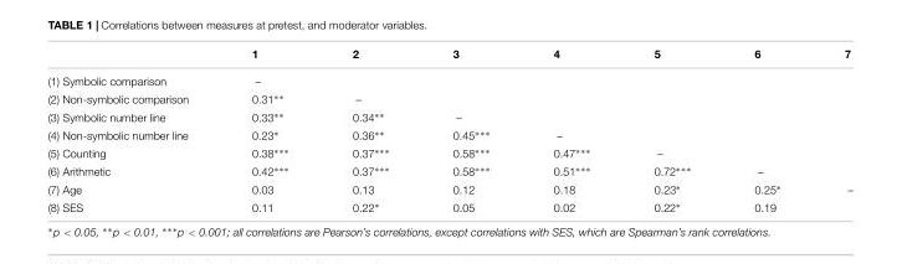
<table><thead><tr><td></td><td>1</td><td>2</td><td>3</td><td>4</td><td>5</td><td>6</td><td>7</td></tr></thead><tbody><tr><td>(1) Symbolic comparison</td><td>–</td><td></td><td></td><td></td><td></td><td></td><td></td></tr><tr><td>(2) Non-symbolic comparison</td><td>0.31∗∗</td><td>–</td><td></td><td></td><td></td><td></td><td></td></tr><tr><td>(3) Symbolic number line</td><td>0.33∗∗</td><td>0.34∗∗</td><td>–</td><td></td><td></td><td></td><td></td></tr><tr><td>(4) Non-symbolic number line</td><td>0.23∗</td><td>0.36∗∗</td><td>0.45∗∗∗</td><td>–</td><td></td><td></td><td></td></tr><tr><td>(5) Counting</td><td>0.38∗∗∗</td><td>0.37∗∗∗</td><td>0.58∗∗∗</td><td>0.47∗∗∗</td><td>–</td><td></td><td></td></tr><tr><td>(6) Arithmetic</td><td>0.42∗∗∗</td><td>0.37∗∗∗</td><td>0.58∗∗∗</td><td>0.51∗∗∗</td><td>0.72∗∗∗</td><td>–</td><td></td></tr><tr><td>(7) Age</td><td>0.03</td><td>0.13</td><td>0.12</td><td>0.18</td><td>0.23∗</td><td>0.25∗</td><td>–</td></tr><tr><td>(8) SES</td><td>0.11</td><td>0.22∗</td><td>0.05</td><td>0.02</td><td>0.22∗</td><td>0.19</td><td></td></tr></tbody></table>